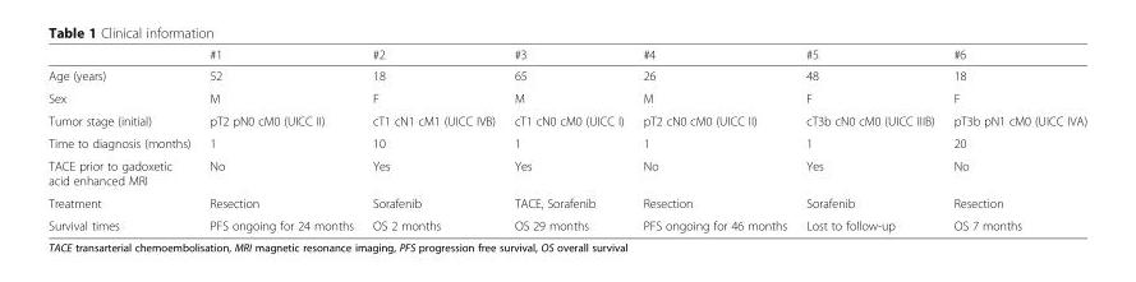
<table><thead><tr><td></td><td>#1</td><td>#2</td><td>#3</td><td>#4</td><td>#5</td><td>#6</td></tr></thead><tbody><tr><td>Age (years)</td><td>52</td><td>18</td><td>65</td><td>26</td><td>48</td><td>18</td></tr><tr><td>Sex</td><td>M</td><td>F</td><td>M</td><td>M</td><td>F</td><td>F</td></tr><tr><td>Tumor stage (initial)</td><td>pT2 pN0 cM0 (UICC II)</td><td>cT1 cN1 cM1 (UICC IVB)</td><td>cT1 cN0 cM0 (UICC I)</td><td>pT2 cN0 cM0 (UICC II)</td><td>cT3b cN0 cM0 (UICC IIIB)</td><td>pT3b pN1 cM0 (UICC IVA)</td></tr><tr><td>Time to diagnosis (months)</td><td>1</td><td>10</td><td>1</td><td>1</td><td>1</td><td>20</td></tr><tr><td>TACE prior to gadoxetic acid enhanced MRI</td><td>No</td><td>Yes</td><td>Yes</td><td>No</td><td>Yes</td><td>No</td></tr><tr><td>Treatment</td><td>Resection</td><td>Sorafenib</td><td>TACE, Sorafenib</td><td>Resection</td><td>Sorafenib</td><td>Resection</td></tr><tr><td>Survival times</td><td>PFS ongoing for 24 months</td><td>OS 2 months</td><td>OS 29 months</td><td>PFS ongoing for 46 months</td><td>Lost to follow-up</td><td>OS 7 months</td></tr></tbody></table>